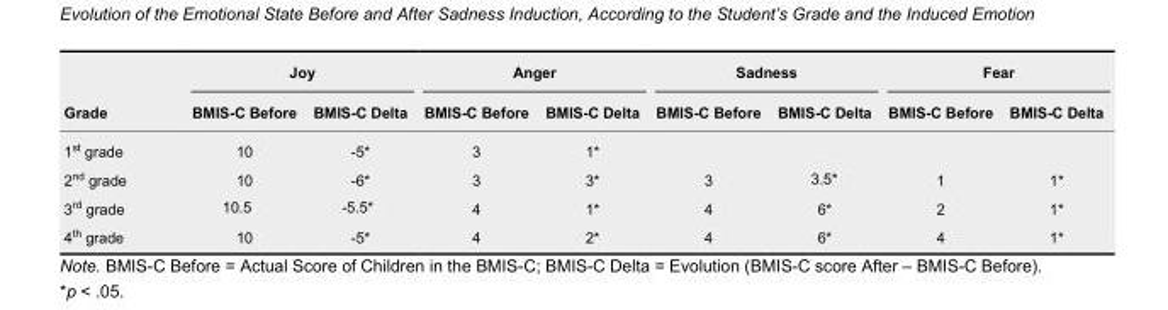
<table><thead><tr><td rowspan="2">Grade</td><td colspan="2">Joy</td><td colspan="2">Anger</td><td colspan="2">Sadness</td><td colspan="2">Fear</td></tr><tr><td>BMIS-C Before</td><td>BMIS-C Delta</td><td>BMIS-C Before</td><td>BMIS-C Delta</td><td>BMIS-C Before</td><td>BMIS-C Delta</td><td>BMIS-C Before</td><td>BMIS-C Delta</td></tr></thead><tbody><tr><td>1<sup>st</sup> grade</td><td>10</td><td>-5*</td><td>3</td><td>1*</td><td></td><td></td><td></td><td></td></tr><tr><td>2<sup>nd</sup> grade</td><td>10</td><td>-6*</td><td>3</td><td>3*</td><td>3</td><td>3.5*</td><td>1</td><td>1*</td></tr><tr><td>3<sup>rd</sup> grade</td><td>10.5</td><td>-5.5*</td><td>4</td><td>1*</td><td>4</td><td>6*</td><td>2</td><td>1*</td></tr><tr><td>4<sup>th</sup> grade</td><td>10</td><td>-5*</td><td>4</td><td>2*</td><td>4</td><td>6*</td><td>4</td><td>1*</td></tr></tbody></table>